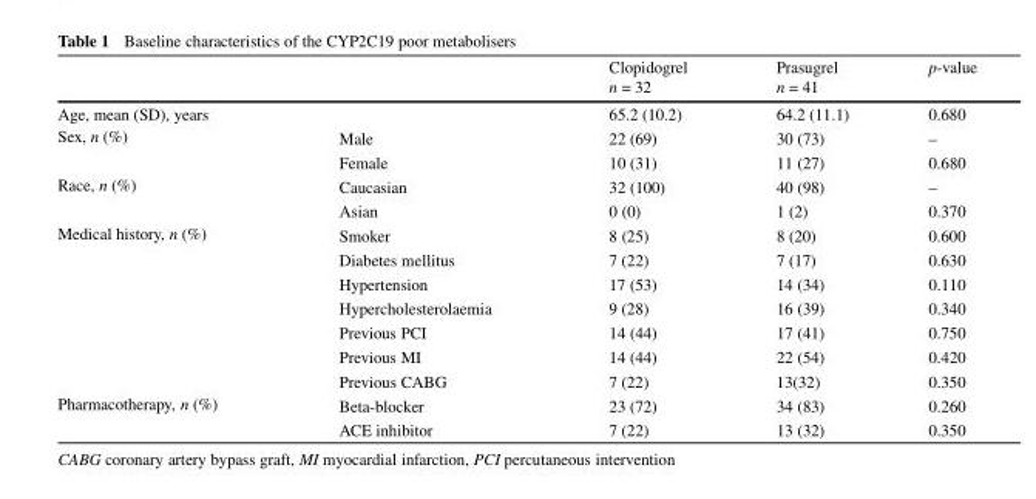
<table><thead><tr><td></td><td></td><td>Clopidogrel n = 32</td><td>Prasugrel n = 41</td><td>p-value</td></tr></thead><tbody><tr><td colspan="2">Age, mean (SD), years</td><td>65.2 (10.2)</td><td>64.2 (11.1)</td><td>0.680</td></tr><tr><td rowspan="2">Sex, n (%)</td><td>Male</td><td>22 (69)</td><td>30 (73)</td><td>–</td></tr><tr><td>Female</td><td>10 (31)</td><td>11 (27)</td><td>0.680</td></tr><tr><td rowspan="2">Race, n (%)</td><td>Caucasian</td><td>32 (100)</td><td>40 (98)</td><td>–</td></tr><tr><td>Asian</td><td>0 (0)</td><td>1 (2)</td><td>0.370</td></tr><tr><td rowspan="7">Medical history, n (%)</td><td>Smoker</td><td>8 (25)</td><td>8 (20)</td><td>0.600</td></tr><tr><td>Diabetes mellitus</td><td>7 (22)</td><td>7 (17)</td><td>0.630</td></tr><tr><td>Hypertension</td><td>17 (53)</td><td>14 (34)</td><td>0.110</td></tr><tr><td>Hypercholesterolaemia</td><td>9 (28)</td><td>16 (39)</td><td>0.340</td></tr><tr><td>Previous PCI</td><td>14 (44)</td><td>17 (41)</td><td>0.750</td></tr><tr><td>Previous MI</td><td>14 (44)</td><td>22 (54)</td><td>0.420</td></tr><tr><td>Previous CABG</td><td>7 (22)</td><td>13(32)</td><td>0.350</td></tr><tr><td rowspan="2">Pharmacotherapy, n (%)</td><td>Beta-blocker</td><td>23 (72)</td><td>34 (83)</td><td>0.260</td></tr><tr><td>ACE inhibitor</td><td>7 (22)</td><td>13 (32)</td><td>0.350</td></tr></tbody></table>